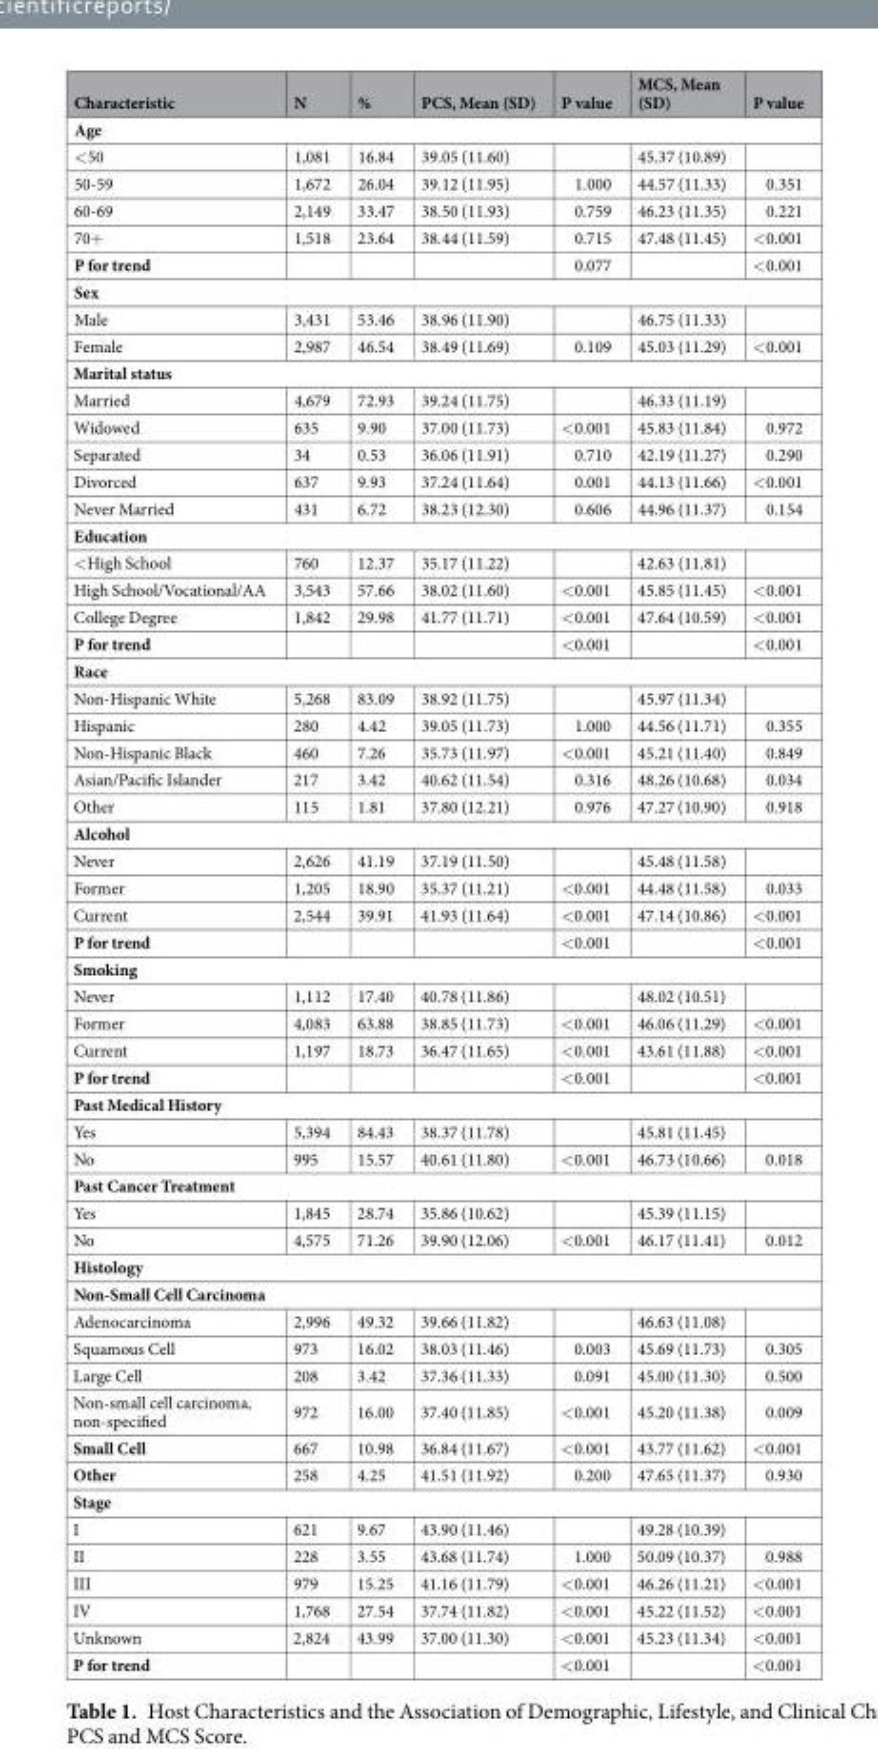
<table><thead><tr><td>Characteristic</td><td>N</td><td>%</td><td>PCS, Mean (SD)</td><td>P value</td><td>MCS, Mean (SD)</td><td>P value</td></tr></thead><tbody><tr><td colspan="7">Age</td></tr><tr><td>&lt;50</td><td>1,081</td><td>16.84</td><td>39.05 (11.60)</td><td></td><td>45.37 (10.89)</td><td></td></tr><tr><td>50-59</td><td>1,672</td><td>26.04</td><td>39.12 (11.95)</td><td>1.000</td><td>44.57 (11.33)</td><td>0.351</td></tr><tr><td>60-69</td><td>2,149</td><td>33.47</td><td>38.50 (11.93)</td><td>0.759</td><td>46.23 (11.35)</td><td>0.221</td></tr><tr><td>70+</td><td>1,518</td><td>23.64</td><td>38.44 (11.59)</td><td>0.715</td><td>47.48 (11.45)</td><td>&lt;0.001</td></tr><tr><td>P for trend</td><td></td><td></td><td></td><td>0.077</td><td></td><td>&lt;0.001</td></tr><tr><td colspan="7">Sex</td></tr><tr><td>Male</td><td>3,431</td><td>53.46</td><td>38.96 (11.90)</td><td></td><td>46.75 (11.33)</td><td></td></tr><tr><td>Female</td><td>2,987</td><td>46.54</td><td>38.49 (11.69)</td><td>0.109</td><td>45.03 (11.29)</td><td>&lt;0.001</td></tr><tr><td colspan="7">Marital status</td></tr><tr><td>Married</td><td>4,679</td><td>72.93</td><td>39.24 (11.75)</td><td></td><td>46.33 (11.19)</td><td></td></tr><tr><td>Widowed</td><td>635</td><td>9.90</td><td>37.00 (11.73)</td><td>&lt;0.001</td><td>45.83 (11.84)</td><td>0.972</td></tr><tr><td>Separated</td><td>34</td><td>0.53</td><td>36.06 (11.91)</td><td>0.710</td><td>42.19 (11.27)</td><td>0.290</td></tr><tr><td>Divorced</td><td>637</td><td>9.93</td><td>37.24 (11.64)</td><td>0.001</td><td>44.13 (11.66)</td><td>&lt;0.001</td></tr><tr><td>Never Married</td><td>431</td><td>6.72</td><td>38.23 (12.30)</td><td>0.606</td><td>44.96 (11.37)</td><td>0.154</td></tr><tr><td colspan="7">Education</td></tr><tr><td>&lt;High School</td><td>760</td><td>12.37</td><td>35.17 (11.22)</td><td></td><td>42.63 (11.81)</td><td></td></tr><tr><td>High School/Vocational/AA</td><td>3,543</td><td>57.66</td><td>38.02 (11.60)</td><td>&lt;0.001</td><td>45.85 (11.45)</td><td>&lt;0.001</td></tr><tr><td>College Degree</td><td>1,842</td><td>29.98</td><td>41.77 (11.71)</td><td>&lt;0.001</td><td>47.64 (10.59)</td><td>&lt;0.001</td></tr><tr><td>P for trend</td><td></td><td></td><td></td><td>&lt;0.001</td><td></td><td>&lt;0.001</td></tr><tr><td colspan="7">Race</td></tr><tr><td>Non-Hispanic White</td><td>5,268</td><td>83.09</td><td>38.92 (11.75)</td><td></td><td>45.97 (11.34)</td><td></td></tr><tr><td>Hispanic</td><td>280</td><td>4.42</td><td>39.05 (11.73)</td><td>1.000</td><td>44.56 (11.71)</td><td>0.355</td></tr><tr><td>Non-Hispanic Black</td><td>460</td><td>7.26</td><td>35.73 (11.97)</td><td>&lt;0.001</td><td>45.21 (11.40)</td><td>0.849</td></tr><tr><td>Asian/Pacific Islander</td><td>217</td><td>3.42</td><td>40.62 (11.54)</td><td>0.316</td><td>48.26 (10.68)</td><td>0.034</td></tr><tr><td>Other</td><td>115</td><td>1.81</td><td>37.80 (12.21)</td><td>0.976</td><td>47.27 (10.90)</td><td>0.918</td></tr><tr><td colspan="7">Alcohol</td></tr><tr><td>Never</td><td>2,626</td><td>41.19</td><td>37.19 (11.50)</td><td></td><td>45.48 (11.58)</td><td></td></tr><tr><td>Former</td><td>1,205</td><td>18.90</td><td>35.37 (11.21)</td><td>&lt;0.001</td><td>44.48 (11.58)</td><td>0.033</td></tr><tr><td>Current</td><td>2,544</td><td>39.91</td><td>41.93 (11.64)</td><td>&lt;0.001</td><td>47.14 (10.86)</td><td>&lt;0.001</td></tr><tr><td>P for trend</td><td></td><td></td><td></td><td>&lt;0.001</td><td></td><td>&lt;0.001</td></tr><tr><td colspan="7">Smoking</td></tr><tr><td>Never</td><td>1,112</td><td>17.40</td><td>40.78 (11.86)</td><td></td><td>48.02 (10.51)</td><td></td></tr><tr><td>Former</td><td>4,083</td><td>63.88</td><td>38.85 (11.73)</td><td>&lt;0.001</td><td>46.06 (11.29)</td><td>&lt;0.001</td></tr><tr><td>Current</td><td>1,197</td><td>18.73</td><td>36.47 (11.65)</td><td>&lt;0.001</td><td>43.61 (11.88)</td><td>&lt;0.001</td></tr><tr><td>P for trend</td><td></td><td></td><td></td><td>&lt;0.001</td><td></td><td>&lt;0.001</td></tr><tr><td colspan="7">Past Medical History</td></tr><tr><td>Yes</td><td>5,394</td><td>84.43</td><td>38.37 (11.78)</td><td></td><td>45.81 (11.45)</td><td></td></tr><tr><td>No</td><td>995</td><td>15.57</td><td>40.61 (11.80)</td><td>&lt;0.001</td><td>46.73 (10.66)</td><td>0.018</td></tr><tr><td colspan="7">Past Cancer Treatment</td></tr><tr><td>Yes</td><td>1,845</td><td>28.74</td><td>35.86 (10.62)</td><td></td><td>45.39 (11.15)</td><td></td></tr><tr><td>No</td><td>4,575</td><td>71.26</td><td>39.90 (12.06)</td><td>&lt;0.001</td><td>46.17 (11.41)</td><td>0.012</td></tr><tr><td colspan="7">Histology</td></tr><tr><td colspan="7">Non-Small Cell Carcinoma</td></tr><tr><td>Adenocarcinoma</td><td>2,996</td><td>49.32</td><td>39.66 (11.82)</td><td></td><td>46.63 (11.08)</td><td></td></tr><tr><td>Squamous Cell</td><td>973</td><td>16.02</td><td>38.03 (11.46)</td><td>0.003</td><td>45.69 (11.73)</td><td>0.305</td></tr><tr><td>Large Cell</td><td>208</td><td>3.42</td><td>37.36 (11.33)</td><td>0.091</td><td>45.00 (11.30)</td><td>0.500</td></tr><tr><td>Non-small cell carcinoma, non-specified</td><td>972</td><td>16.00</td><td>37.40 (11.85)</td><td>&lt;0.001</td><td>45.20 (11.38)</td><td>0.009</td></tr><tr><td>Small Cell</td><td>667</td><td>10.98</td><td>36.84 (11.67)</td><td>&lt;0.001</td><td>43.77 (11.62)</td><td>&lt;0.001</td></tr><tr><td>Other</td><td>258</td><td>4.25</td><td>41.51 (11.92)</td><td>0.200</td><td>47.65 (11.37)</td><td>0.930</td></tr><tr><td colspan="7">Stage</td></tr><tr><td>I</td><td>621</td><td>9.67</td><td>43.90 (11.46)</td><td></td><td>49.28 (10.39)</td><td></td></tr><tr><td>II</td><td>228</td><td>3.55</td><td>43.68 (11.74)</td><td>1.000</td><td>50.09 (10.37)</td><td>0.988</td></tr><tr><td>III</td><td>979</td><td>15.25</td><td>41.16 (11.79)</td><td>&lt;0.001</td><td>46.26 (11.21)</td><td>&lt;0.001</td></tr><tr><td>IV</td><td>1,768</td><td>27.54</td><td>37.74 (11.82)</td><td>&lt;0.001</td><td>45.22 (11.52)</td><td>&lt;0.001</td></tr><tr><td>Unknown</td><td>2,824</td><td>43.99</td><td>37.00 (11.30)</td><td>&lt;0.001</td><td>45.23 (11.34)</td><td>&lt;0.001</td></tr><tr><td>P for trend</td><td></td><td></td><td></td><td>&lt;0.001</td><td></td><td>&lt;0.001</td></tr></tbody></table>